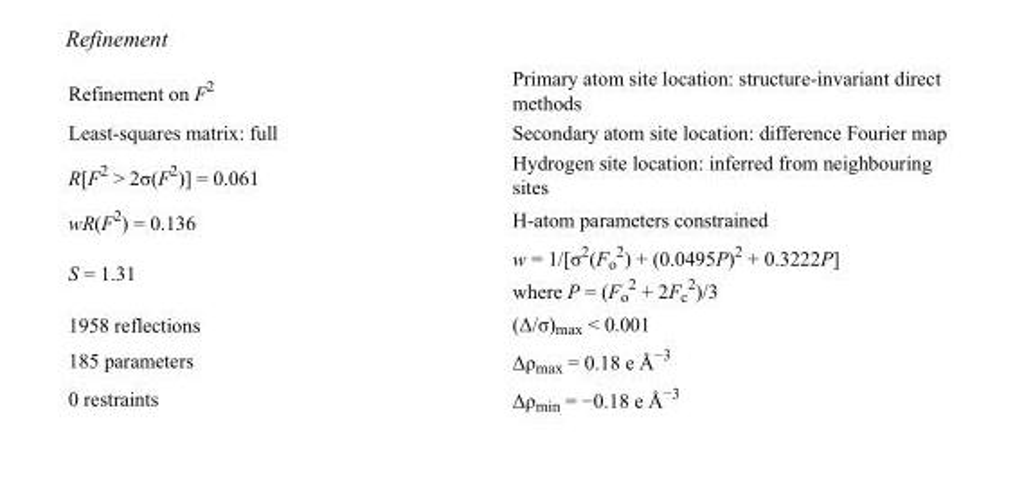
<table><tbody><tr><td>Refinement on F<sup>2</sup></td><td>Primary atom site location: structure-invariant direct methods</td></tr><tr><td>Least-squares matrix: full</td><td>Secondary atom site location: difference Fourier map</td></tr><tr><td>R[F<sup>2</sup> &gt; 2σ(F<sup>2</sup>)] = 0.061</td><td>Hydrogen site location: inferred from neighbouring sites</td></tr><tr><td>wR(F<sup>2</sup>) = 0.136</td><td>H-atom parameters constrained</td></tr><tr><td>S = 1.31</td><td>w = 1/[σ<sup>2</sup>(F<sub>o</sub> <sup>2</sup>) + (0.0495P)<sup>2</sup> + 0.3222P] where P = (F<sub>o</sub> <sup>2</sup> + 2F<sub>c</sub> <sup>2</sup>)/3</td></tr><tr><td>1958 reflections</td><td>(Δ/σ)<sub>max</sub> &lt; 0.001</td></tr><tr><td>185 parameters</td><td>Δρ<sub>max</sub> = 0.18 e Å<sup>−3</sup></td></tr><tr><td>0 restraints</td><td>Δρ<sub>min</sub> = −0.18 e Å<sup>−3</sup></td></tr></tbody></table>